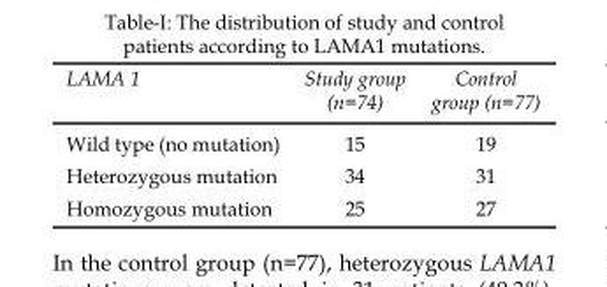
<table><thead><tr><td>LAMA 1</td><td>Study group (n=74)</td><td>Control group (n=77)</td></tr></thead><tbody><tr><td>Wild type (no mutation)</td><td>15</td><td>19</td></tr><tr><td>Heterozygous mutation</td><td>34</td><td>31</td></tr><tr><td>Homozygous mutation</td><td>25</td><td>27</td></tr></tbody></table>